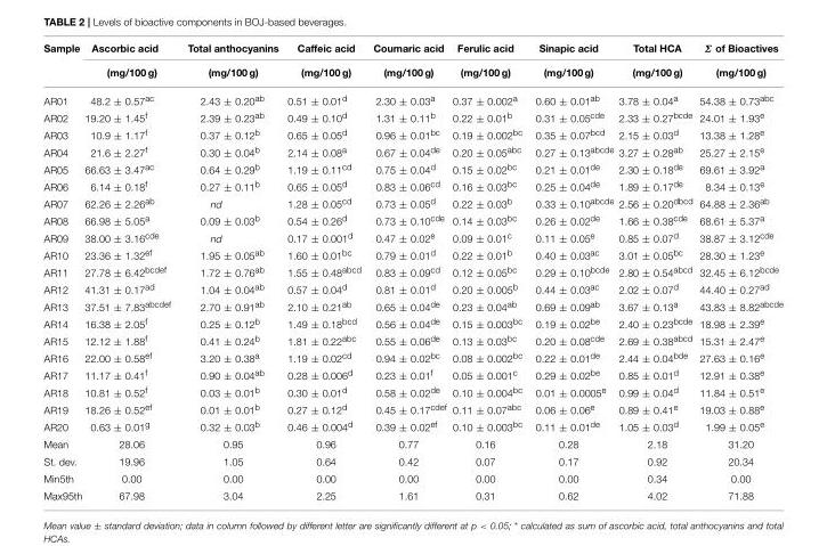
<table><thead><tr><td rowspan="2">Sample</td><td rowspan="2">Ascorbic acid (mg/100 g)</td><td rowspan="2">Total anthocyanins (mg/100 g)</td><td rowspan="2">Caffeic acid (mg/100 g)</td><td rowspan="2">Coumaric acid (mg/100 g)</td><td rowspan="2">Ferulic acid (mg/100 g)</td><td rowspan="2">Sinapic acid (mg/100 g)</td><td rowspan="2">Total HCA (mg/100 g)</td><td rowspan="2">Σ of Bioactives (mg/100 g)</td></tr><tr></tr></thead><tbody><tr><td>AR01</td><td>48.2 ± 0.57<sup>ac</sup></td><td>2.43 ± 0.20<sup>ab</sup></td><td>0.51 ± 0.01<sup>d</sup></td><td>2.30 ± 0.03<sup>a</sup></td><td>0.37 ± 0.002<sup>a</sup></td><td>0.60 ± 0.01<sup>ab</sup></td><td>3.78 ± 0.04<sup>a</sup></td><td>54.38 ± 0.73<sup>abc</sup></td></tr><tr><td>AR02</td><td>19.20 ± 1.45<sup>f</sup></td><td>2.39 ± 0.23<sup>ab</sup></td><td>0.49 ± 0.10<sup>d</sup></td><td>1.31 ± 0.11<sup>b</sup></td><td>0.22 ± 0.01<sup>b</sup></td><td>0.31 ± 0.05<sup>cde</sup></td><td>2.33 ± 0.27<sup>bcde</sup></td><td>24.01 ± 1.93<sup>e</sup></td></tr><tr><td>AR03</td><td>10.9 ± 1.17<sup>f</sup></td><td>0.37 ± 0.12<sup>b</sup></td><td>0.65 ± 0.05<sup>d</sup></td><td>0.96 ± 0.01<sup>bc</sup></td><td>0.19 ± 0.002<sup>bc</sup></td><td>0.35 ± 0.07<sup>bcd</sup></td><td>2.15 ± 0.03<sup>d</sup></td><td>13.38 ± 1.28<sup>e</sup></td></tr><tr><td>AR04</td><td>21.6 ± 2.27<sup>f</sup></td><td>0.30 ± 0.04<sup>b</sup></td><td>2.14 ± 0.08<sup>a</sup></td><td>0.67 ± 0.04<sup>de</sup></td><td>0.20 ± 0.05<sup>abc</sup></td><td>0.27 ± 0.13<sup>abcde</sup></td><td>3.27 ± 0.28<sup>ab</sup></td><td>25.27 ± 2.15<sup>e</sup></td></tr><tr><td>AR05</td><td>66.63 ± 3.47<sup>ac</sup></td><td>0.64 ± 0.29<sup>b</sup></td><td>1.19 ± 0.11<sup>cd</sup></td><td>0.75 ± 0.04<sup>d</sup></td><td>0.15 ± 0.02<sup>bc</sup></td><td>0.21 ± 0.01<sup>de</sup></td><td>2.30 ± 0.18<sup>de</sup></td><td>69.61 ± 3.92<sup>a</sup></td></tr><tr><td>AR06</td><td>6.14 ± 0.18<sup>f</sup></td><td>0.27 ± 0.11<sup>b</sup></td><td>0.65 ± 0.05<sup>d</sup></td><td>0.83 ± 0.06<sup>cd</sup></td><td>0.16 ± 0.03<sup>bc</sup></td><td>0.25 ± 0.04<sup>de</sup></td><td>1.89 ± 0.17<sup>de</sup></td><td>8.34 ± 0.13<sup>e</sup></td></tr><tr><td>AR07</td><td>62.26 ± 2.26<sup>ab</sup></td><td>nd</td><td>1.28 ± 0.05<sup>cd</sup></td><td>0.73 ± 0.05<sup>d</sup></td><td>0.22 ± 0.03<sup>b</sup></td><td>0.33 ± 0.10<sup>abcde</sup></td><td>2.56 ± 0.20<sup>dbcd</sup></td><td>64.88 ± 2.36<sup>ab</sup></td></tr><tr><td>AR08</td><td>66.98 ± 5.05<sup>a</sup></td><td>0.09 ± 0.03<sup>b</sup></td><td>0.54 ± 0.26<sup>d</sup></td><td>0.73 ± 0.10<sup>cde</sup></td><td>0.14 ± 0.03<sup>bc</sup></td><td>0.26 ± 0.02<sup>de</sup></td><td>1.66 ± 0.38<sup>cde</sup></td><td>68.61 ± 5.37<sup>a</sup></td></tr><tr><td>AR09</td><td>38.00 ± 3.16<sup>cde</sup></td><td>nd</td><td>0.17 ± 0.001<sup>d</sup></td><td>0.47 ± 0.02<sup>e</sup></td><td>0.09 ± 0.01<sup>c</sup></td><td>0.11 ± 0.05<sup>e</sup></td><td>0.85 ± 0.07<sup>d</sup></td><td>38.87 ± 3.12<sup>cde</sup></td></tr><tr><td>AR10</td><td>23.36 ± 1.32<sup>ef</sup></td><td>1.95 ± 0.05<sup>ab</sup></td><td>1.60 ± 0.01<sup>bc</sup></td><td>0.79 ± 0.01<sup>d</sup></td><td>0.22 ± 0.01<sup>b</sup></td><td>0.40 ± 0.03<sup>ac</sup></td><td>3.01 ± 0.05<sup>bc</sup></td><td>28.30 ± 1.23<sup>e</sup></td></tr><tr><td>AR11</td><td>27.78 ± 6.42<sup>bcdef</sup></td><td>1.72 ± 0.76<sup>ab</sup></td><td>1.55 ± 0.48<sup>abcd</sup></td><td>0.83 ± 0.09<sup>cd</sup></td><td>0.12 ± 0.05<sup>bc</sup></td><td>0.29 ± 0.10<sup>bcde</sup></td><td>2.80 ± 0.54<sup>abcd</sup></td><td>32.45 ± 6.12<sup>bcde</sup></td></tr><tr><td>AR12</td><td>41.31 ± 0.17<sup>ad</sup></td><td>1.04 ± 0.04<sup>ab</sup></td><td>0.57 ± 0.04<sup>d</sup></td><td>0.81 ± 0.01<sup>d</sup></td><td>0.20 ± 0.005<sup>b</sup></td><td>0.44 ± 0.03<sup>ac</sup></td><td>2.02 ± 0.07<sup>d</sup></td><td>44.40 ± 0.27<sup>ad</sup></td></tr><tr><td>AR13</td><td>37.51 ± 7.83<sup>abcdef</sup></td><td>2.70 ± 0.91<sup>ab</sup></td><td>2.10 ± 0.21<sup>ab</sup></td><td>0.65 ± 0.04<sup>de</sup></td><td>0.23 ± 0.04<sup>ab</sup></td><td>0.69 ± 0.09<sup>ab</sup></td><td>3.67 ± 0.13<sup>a</sup></td><td>43.83 ± 8.82<sup>abcde</sup></td></tr><tr><td>AR14</td><td>16.38 ± 2.05<sup>f</sup></td><td>0.25 ± 0.12<sup>b</sup></td><td>1.49 ± 0.18<sup>bcd</sup></td><td>0.56 ± 0.04<sup>de</sup></td><td>0.15 ± 0.003<sup>bc</sup></td><td>0.19 ± 0.02<sup>be</sup></td><td>2.40 ± 0.23<sup>bcde</sup></td><td>18.98 ± 2.39<sup>e</sup></td></tr><tr><td>AR15</td><td>12.12 ± 1.88<sup>f</sup></td><td>0.41 ± 0.24<sup>b</sup></td><td>1.81 ± 0.22<sup>abc</sup></td><td>0.55 ± 0.06<sup>de</sup></td><td>0.13 ± 0.03<sup>bc</sup></td><td>0.20 ± 0.08<sup>cde</sup></td><td>2.69 ± 0.38<sup>abcd</sup></td><td>15.31 ± 2.47<sup>e</sup></td></tr><tr><td>AR16</td><td>22.00 ± 0.58<sup>ef</sup></td><td>3.20 ± 0.38<sup>a</sup></td><td>1.19 ± 0.02<sup>cd</sup></td><td>0.94 ± 0.02<sup>bc</sup></td><td>0.08 ± 0.002<sup>bc</sup></td><td>0.22 ± 0.01<sup>de</sup></td><td>2.44 ± 0.04<sup>bde</sup></td><td>27.63 ± 0.16<sup>e</sup></td></tr><tr><td>AR17</td><td>11.17 ± 0.41<sup>f</sup></td><td>0.90 ± 0.04<sup>ab</sup></td><td>0.28 ± 0.006<sup>d</sup></td><td>0.23 ± 0.01<sup>f</sup></td><td>0.05 ± 0.001<sup>c</sup></td><td>0.29 ± 0.02<sup>be</sup></td><td>0.85 ± 0.01<sup>d</sup></td><td>12.91 ± 0.38<sup>e</sup></td></tr><tr><td>AR18</td><td>10.81 ± 0.52<sup>f</sup></td><td>0.03 ± 0.01<sup>b</sup></td><td>0.30 ± 0.01<sup>d</sup></td><td>0.58 ± 0.02<sup>de</sup></td><td>0.10 ± 0.004<sup>bc</sup></td><td>0.01 ± 0.0005<sup>e</sup></td><td>0.99 ± 0.04<sup>d</sup></td><td>11.84 ± 0.51<sup>e</sup></td></tr><tr><td>AR19</td><td>18.26 ± 0.52<sup>ef</sup></td><td>0.01 ± 0.01<sup>b</sup></td><td>0.27 ± 0.12<sup>d</sup></td><td>0.45 ± 0.17<sup>cdef</sup></td><td>0.11 ± 0.07<sup>abc</sup></td><td>0.06 ± 0.06<sup>e</sup></td><td>0.89 ± 0.41<sup>e</sup></td><td>19.03 ± 0.88<sup>e</sup></td></tr><tr><td>AR20</td><td>0.63 ± 0.01<sup>g</sup></td><td>0.32 ± 0.03<sup>b</sup></td><td>0.46 ± 0.004<sup>d</sup></td><td>0.39 ± 0.02<sup>ef</sup></td><td>0.10 ± 0.003<sup>bc</sup></td><td>0.11 ± 0.01<sup>de</sup></td><td>1.05 ± 0.03<sup>d</sup></td><td>1.99 ± 0.05<sup>e</sup></td></tr><tr><td>Mean</td><td>28.06</td><td>0.95</td><td>0.96</td><td>0.77</td><td>0.16</td><td>0.28</td><td>2.18</td><td>31.20</td></tr><tr><td>St. dev.</td><td>19.96</td><td>1.05</td><td>0.64</td><td>0.42</td><td>0.07</td><td>0.17</td><td>0.92</td><td>20.34</td></tr><tr><td>Min5th</td><td>0.00</td><td>0.00</td><td>0.00</td><td>0.00</td><td>0.00</td><td>0.00</td><td>0.34</td><td>0.00</td></tr><tr><td>Max95th</td><td>67.98</td><td>3.04</td><td>2.25</td><td>1.61</td><td>0.31</td><td>0.62</td><td>4.02</td><td>71.88</td></tr></tbody></table>